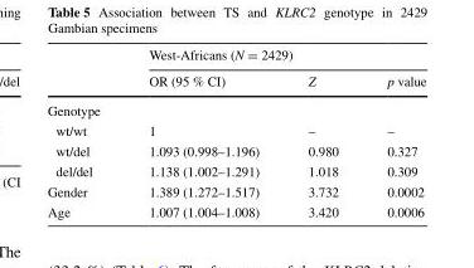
<table><thead><tr><td rowspan="2"></td><td colspan="3">West-Africans (N = 2429)</td></tr><tr><td>OR (95 % CI)</td><td>Z</td><td>p value</td></tr></thead><tbody><tr><td colspan="4">Genotype</td></tr><tr><td>wt/wt</td><td>1</td><td>–</td><td>–</td></tr><tr><td>wt/del</td><td>1.093 (0.998–1.196)</td><td>0.980</td><td>0.327</td></tr><tr><td>del/del</td><td>1.138 (1.002–1.291)</td><td>1.018</td><td>0.309</td></tr><tr><td>Gender</td><td>1.389 (1.272–1.517)</td><td>3.732</td><td>0.0002</td></tr><tr><td>Age</td><td>1.007 (1.004–1.008)</td><td>3.420</td><td>0.0006</td></tr></tbody></table>